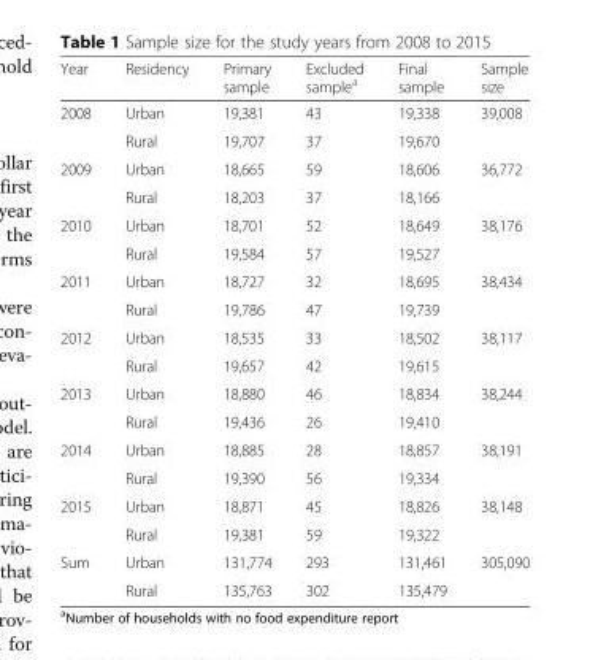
<table><thead><tr><td>Year</td><td>Residency</td><td>Primary sample</td><td>Excluded sample<sup>a</sup></td><td>Final sample</td><td>Sample size</td></tr></thead><tbody><tr><td rowspan="2">2008</td><td>Urban</td><td>19,381</td><td>43</td><td>19,338</td><td rowspan="2">39,008</td></tr><tr><td>Rural</td><td>19,707</td><td>37</td><td>19,670</td></tr><tr><td rowspan="2">2009</td><td>Urban</td><td>18,665</td><td>59</td><td>18,606</td><td rowspan="2">36,772</td></tr><tr><td>Rural</td><td>18,203</td><td>37</td><td>18,166</td></tr><tr><td rowspan="2">2010</td><td>Urban</td><td>18,701</td><td>52</td><td>18,649</td><td rowspan="2">38,176</td></tr><tr><td>Rural</td><td>19,584</td><td>57</td><td>19,527</td></tr><tr><td rowspan="2">2011</td><td>Urban</td><td>18,727</td><td>32</td><td>18,695</td><td rowspan="2">38,434</td></tr><tr><td>Rural</td><td>19,786</td><td>47</td><td>19,739</td></tr><tr><td rowspan="2">2012</td><td>Urban</td><td>18,535</td><td>33</td><td>18,502</td><td rowspan="2">38,117</td></tr><tr><td>Rural</td><td>19,657</td><td>42</td><td>19,615</td></tr><tr><td rowspan="2">2013</td><td>Urban</td><td>18,880</td><td>46</td><td>18,834</td><td rowspan="2">38,244</td></tr><tr><td>Rural</td><td>19,436</td><td>26</td><td>19,410</td></tr><tr><td rowspan="2">2014</td><td>Urban</td><td>18,885</td><td>28</td><td>18,857</td><td rowspan="2">38,191</td></tr><tr><td>Rural</td><td>19,390</td><td>56</td><td>19,334</td></tr><tr><td rowspan="2">2015</td><td>Urban</td><td>18,871</td><td>45</td><td>18,826</td><td rowspan="2">38,148</td></tr><tr><td>Rural</td><td>19,381</td><td>59</td><td>19,322</td></tr><tr><td rowspan="2">Sum</td><td>Urban</td><td>131,774</td><td>293</td><td>131,461</td><td rowspan="2">305,090</td></tr><tr><td>Rural</td><td>135,763</td><td>302</td><td>135,479</td></tr></tbody></table>